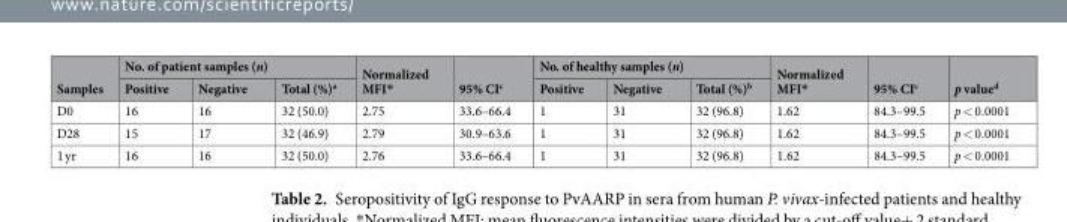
<table><thead><tr><td rowspan="2">Samples</td><td colspan="3">No. of patient samples (n)</td><td rowspan="2">Normalized MFI*</td><td rowspan="2">95% CI<sup>c</sup></td><td colspan="3">No. of healthy samples (n)</td><td rowspan="2">Normalized MFI*</td><td rowspan="2">95% CI<sup>c</sup></td><td rowspan="2">p value<sup>d</sup></td></tr><tr><td>Positive</td><td>Negative</td><td>Total (%)<sup>a</sup></td><td>Positive</td><td>Negative</td><td>Total (%)<sup>b</sup></td></tr></thead><tbody><tr><td>D0</td><td>16</td><td>16</td><td>32 (50.0)</td><td>2.75</td><td>33.6–66.4</td><td>1</td><td>31</td><td>32 (96.8)</td><td>1.62</td><td>84.3–99.5</td><td>p &lt; 0.0001</td></tr><tr><td>D28</td><td>15</td><td>17</td><td>32 (46.9)</td><td>2.79</td><td>30.9–63.6</td><td>1</td><td>31</td><td>32 (96.8)</td><td>1.62</td><td>84.3–99.5</td><td>p &lt; 0.0001</td></tr><tr><td>1 yr</td><td>16</td><td>16</td><td>32 (50.0)</td><td>2.76</td><td>33.6–66.4</td><td>1</td><td>31</td><td>32 (96.8)</td><td>1.62</td><td>84.3–99.5</td><td>p &lt; 0.0001</td></tr></tbody></table>